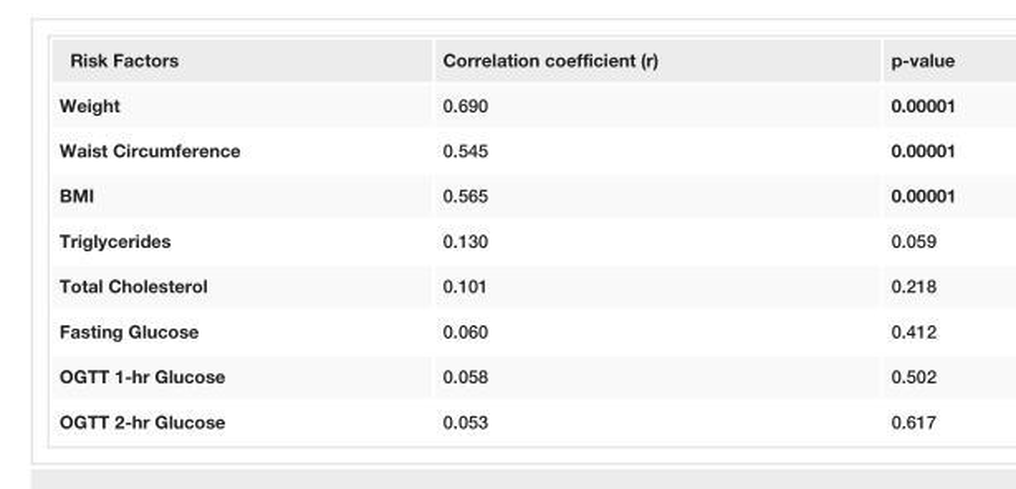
<table><tbody><tr><td>Risk Factors</td><td>Correlation coefficient (r)</td><td>p-value</td></tr><tr><td>Weight</td><td>0.690</td><td>0.00001</td></tr><tr><td>Waist Circumference</td><td>0.545</td><td>0.00001</td></tr><tr><td>BMI</td><td>0.565</td><td>0.00001</td></tr><tr><td>Triglycerides</td><td>0.130</td><td>0.059</td></tr><tr><td>Total Cholesterol</td><td>0.101</td><td>0.218</td></tr><tr><td>Fasting Glucose</td><td>0.060</td><td>0.412</td></tr><tr><td>OGTT 1-hr Glucose</td><td>0.058</td><td>0.502</td></tr><tr><td>OGTT 2-hr Glucose</td><td>0.053</td><td>0.617</td></tr></tbody></table>